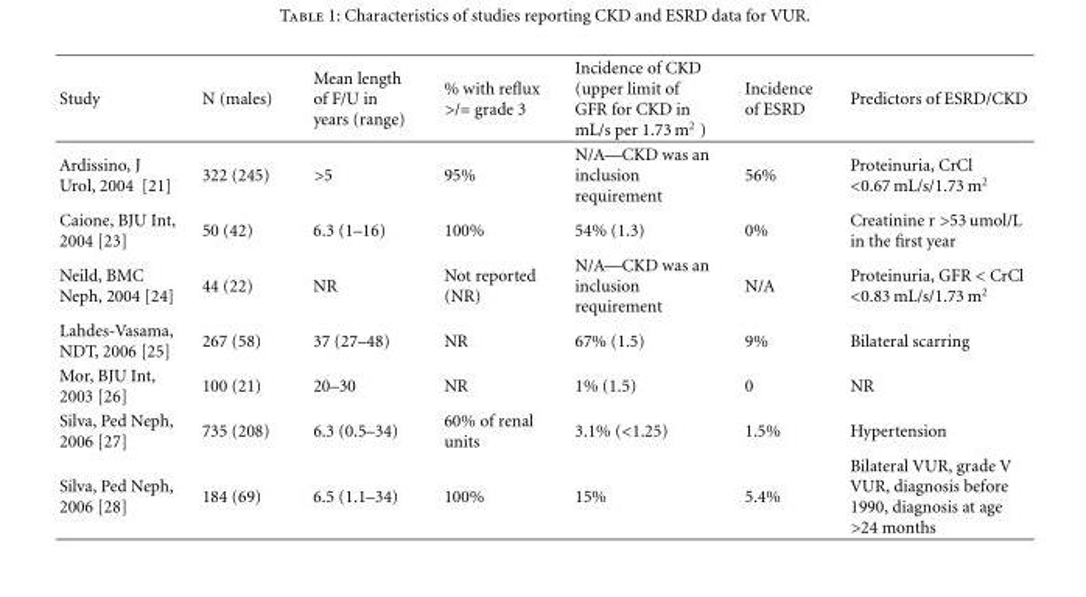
<table><thead><tr><td>Study</td><td>N (males)</td><td>Mean length of F/U in years (range)</td><td>% with reflux &gt;/= grade 3</td><td>Incidence of CKD (upper limit of GFR for CKD in mL/s per 1.73 m<sup>2</sup> )</td><td>Incidence of ESRD</td><td>Predictors of ESRD/CKD</td></tr></thead><tbody><tr><td>Ardissino, J Urol, 2004 [21]</td><td>322 (245)</td><td>&gt;5</td><td>95%</td><td>N/A—CKD was an inclusion requirement</td><td>56%</td><td>Proteinuria, CrCl &lt;0.67 mL/s/1.73 m<sup>2</sup></td></tr><tr><td>Caione, BJU Int, 2004 [23]</td><td>50 (42)</td><td>6.3 (1–16)</td><td>100%</td><td>54% (1.3)</td><td>0%</td><td>Creatinine r &gt;53 umol/L in the first year</td></tr><tr><td>Neild, BMC Neph, 2004 [24]</td><td>44 (22)</td><td>NR</td><td>Not reported (NR)</td><td>N/A—CKD was an inclusion requirement</td><td>N/A</td><td>Proteinuria, GFR &lt; CrCl &lt;0.83 mL/s/1.73 m<sup>2</sup></td></tr><tr><td>Lahdes-Vasama, NDT, 2006 [25]</td><td>267 (58)</td><td>37 (27–48)</td><td>NR</td><td>67% (1.5)</td><td>9%</td><td>Bilateral scarring</td></tr><tr><td>Mor, BJU Int, 2003 [26]</td><td>100 (21)</td><td>20–30</td><td>NR</td><td>1% (1.5)</td><td>0</td><td>NR</td></tr><tr><td>Silva, Ped Neph, 2006 [27]</td><td>735 (208)</td><td>6.3 (0.5–34)</td><td>60% of renal units</td><td>3.1% (&lt;1.25)</td><td>1.5%</td><td>Hypertension</td></tr><tr><td>Silva, Ped Neph, 2006 [28]</td><td>184 (69)</td><td>6.5 (1.1–34)</td><td>100%</td><td>15%</td><td>5.4%</td><td>Bilateral VUR, grade V VUR, diagnosis before 1990, diagnosis at age &gt;24 months</td></tr></tbody></table>